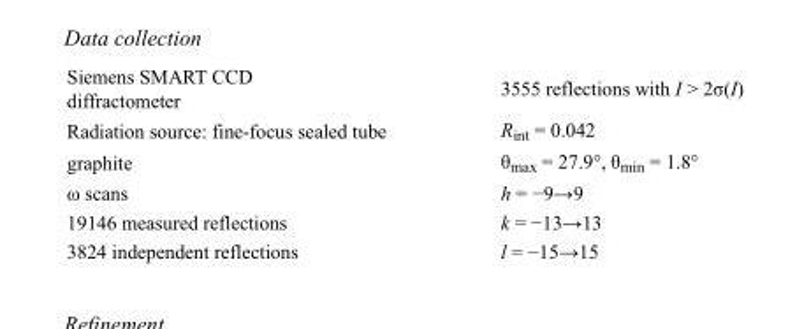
<table><tbody><tr><td>Siemens SMART CCD diffractometer</td><td>3555 reflections with I &gt; 2σ(I)</td></tr><tr><td>Radiation source: fine-focus sealed tube</td><td>R<sub>int</sub> = 0.042</td></tr><tr><td>graphite</td><td>θ<sub>max</sub> = 27.9°, θ<sub>min</sub> = 1.8°</td></tr><tr><td>ω scans</td><td>h = −9→9</td></tr><tr><td>19146 measured reflections</td><td>k = −13→13</td></tr><tr><td>3824 independent reflections</td><td>l = −15→15</td></tr></tbody></table>